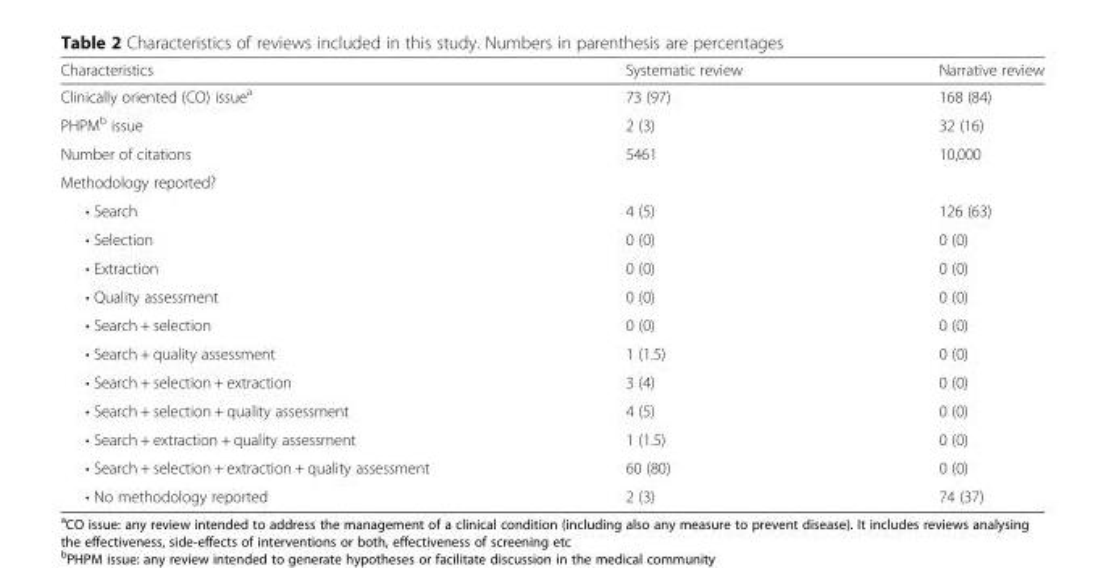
<table><thead><tr><td>Characteristics</td><td>Systematic review</td><td>Narrative review</td></tr></thead><tbody><tr><td>Clinically oriented (CO) issue<sup>a</sup></td><td>73 (97)</td><td>168 (84)</td></tr><tr><td>PHPM<sup>b</sup> issue</td><td>2 (3)</td><td>32 (16)</td></tr><tr><td>Number of citations</td><td>5461</td><td>10,000</td></tr><tr><td colspan="3">Methodology reported?</td></tr><tr><td>• Search</td><td>4 (5)</td><td>126 (63)</td></tr><tr><td>• Selection</td><td>0 (0)</td><td>0 (0)</td></tr><tr><td>• Extraction</td><td>0 (0)</td><td>0 (0)</td></tr><tr><td>• Quality assessment</td><td>0 (0)</td><td>0 (0)</td></tr><tr><td>• Search + selection</td><td>0 (0)</td><td>0 (0)</td></tr><tr><td>• Search + quality assessment</td><td>1 (1.5)</td><td>0 (0)</td></tr><tr><td>• Search + selection + extraction</td><td>3 (4)</td><td>0 (0)</td></tr><tr><td>• Search + selection + quality assessment</td><td>4 (5)</td><td>0 (0)</td></tr><tr><td>• Search + extraction + quality assessment</td><td>1 (1.5)</td><td>0 (0)</td></tr><tr><td>• Search + selection + extraction + quality assessment</td><td>60 (80)</td><td>0 (0)</td></tr><tr><td>• No methodology reported</td><td>2 (3)</td><td>74 (37)</td></tr></tbody></table>